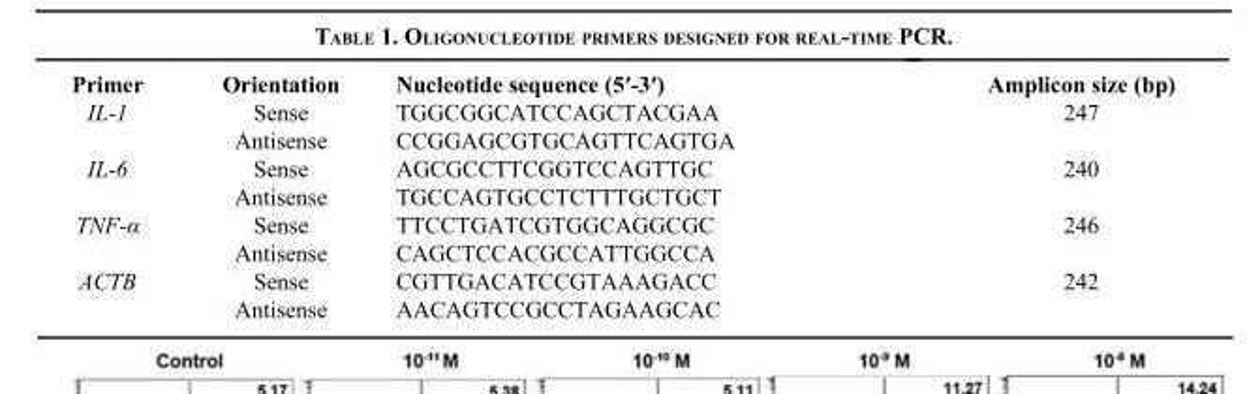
<table><thead><tr><td>Primer</td><td>Orientation</td><td>Nucleotide sequence (5′-3′)</td><td>Amplicon size (bp)</td></tr></thead><tbody><tr><td rowspan="2">IL-1</td><td>Sense</td><td>TGGCGGCATCCAGCTACGAA</td><td>247</td></tr><tr><td>Antisense</td><td>CCGGAGCGTGCAGTTCAGTGA</td><td></td></tr><tr><td rowspan="2">IL-6</td><td>Sense</td><td>AGCGCCTTCGGTCCAGTTGC</td><td>240</td></tr><tr><td>Antisense</td><td>TGCCAGTGCCTCTTTGCTGCT</td><td></td></tr><tr><td rowspan="2">TNF-α</td><td>Sense</td><td>TTCCTGATCGTGGCAGGCGC</td><td>246</td></tr><tr><td>Antisense</td><td>CAGCTCCACGCCATTGGCCA</td><td></td></tr><tr><td rowspan="2">ACTB</td><td>Sense</td><td>CGTTGACATCCGTAAAGACC</td><td>242</td></tr><tr><td>Antisense</td><td>AACAGTCCGCCTAGAAGCAC</td><td></td></tr></tbody></table>